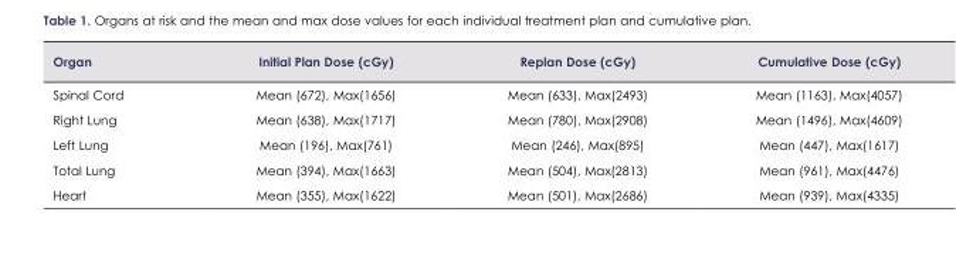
<table><thead><tr><td>Organ</td><td>Initial Plan Dose (cGy)</td><td>Replan Dose (cGy)</td><td>Cumulative Dose (cGy)</td></tr></thead><tbody><tr><td>Spinal Cord</td><td>Mean (672), Max(1656)</td><td>Mean (633), Max(2493)</td><td>Mean (1163), Max(4057)</td></tr><tr><td>Right Lung</td><td>Mean (638), Max(1717)</td><td>Mean (780), Max(2908)</td><td>Mean (1496), Max(4609)</td></tr><tr><td>Left Lung</td><td>Mean (196), Max(761)</td><td>Mean (246), Max(895)</td><td>Mean (447), Max(1617)</td></tr><tr><td>Total Lung</td><td>Mean (394), Max(1663)</td><td>Mean (504), Max(2813)</td><td>Mean (961), Max(4476)</td></tr><tr><td>Heart</td><td>Mean (355), Max(1622)</td><td>Mean (501), Max(2686)</td><td>Mean (939), Max(4335)</td></tr></tbody></table>